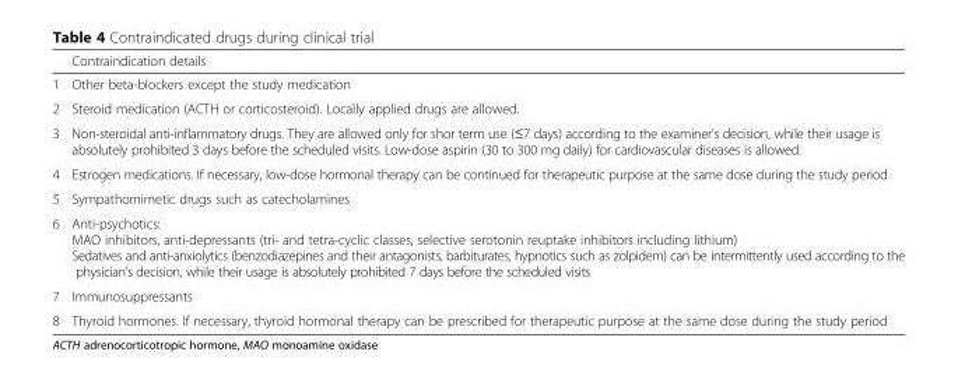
<table><thead><tr><td></td><td>Contraindication details</td></tr></thead><tbody><tr><td>1</td><td>Other beta-blockers except the study medication</td></tr><tr><td>2</td><td>Steroid medication (ACTH or corticosteroid). Locally applied drugs are allowed.</td></tr><tr><td>3</td><td>Non-steroidal anti-inflammatory drugs. They are allowed only for shor term use (≤7 days) according to the examiner’s decision, while their usage is absolutely prohibited 3 days before the scheduled visits. Low-dose aspirin (30 to 300 mg daily) for cardiovascular diseases is allowed.</td></tr><tr><td>4</td><td>Estrogen medications. If necessary, low-dose hormonal therapy can be continued for therapeutic purpose at the same dose during the study period</td></tr><tr><td>5</td><td>Sympathomimetic drugs such as catecholamines</td></tr><tr><td>6</td><td>Anti-psychotics: MAO inhibitors, anti-depressants (tri- and tetra-cyclic classes, selective serotonin reuptake inhibitors including lithium) Sedatives and anti-anxiolytics (benzodiazepines and their antagonists, barbiturates, hypnotics such as zolpidem) can be intermittently used according to the physician&#x27;s decision, while their usage is absolutely prohibited 7 days before the scheduled visits</td></tr><tr><td>7</td><td>Immunosuppressants</td></tr><tr><td>8</td><td>Thyroid hormones. If necessary, thyroid hormonal therapy can be prescribed for therapeutic purpose at the same dose during the study period</td></tr></tbody></table>